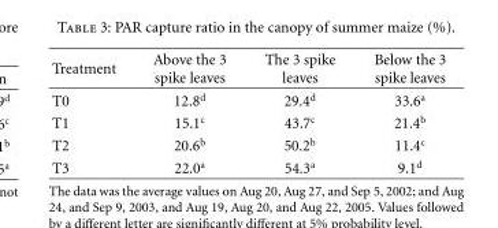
<table><thead><tr><td>Treatment</td><td>Above the 3 spike leaves</td><td>The 3 spike leaves</td><td>Below the 3 spike leaves</td></tr></thead><tbody><tr><td>T0</td><td>12.8<sup>d</sup></td><td>29.4<sup>d</sup></td><td>33.6<sup>a</sup></td></tr><tr><td>T1</td><td>15.1<sup>c</sup></td><td>43.7<sup>c</sup></td><td>21.4<sup>b</sup></td></tr><tr><td>T2</td><td>20.6<sup>b</sup></td><td>50.2<sup>b</sup></td><td>11.4<sup>c</sup></td></tr><tr><td>T3</td><td>22.0<sup>a</sup></td><td>54.3<sup>a</sup></td><td>9.1<sup>d</sup></td></tr></tbody></table>